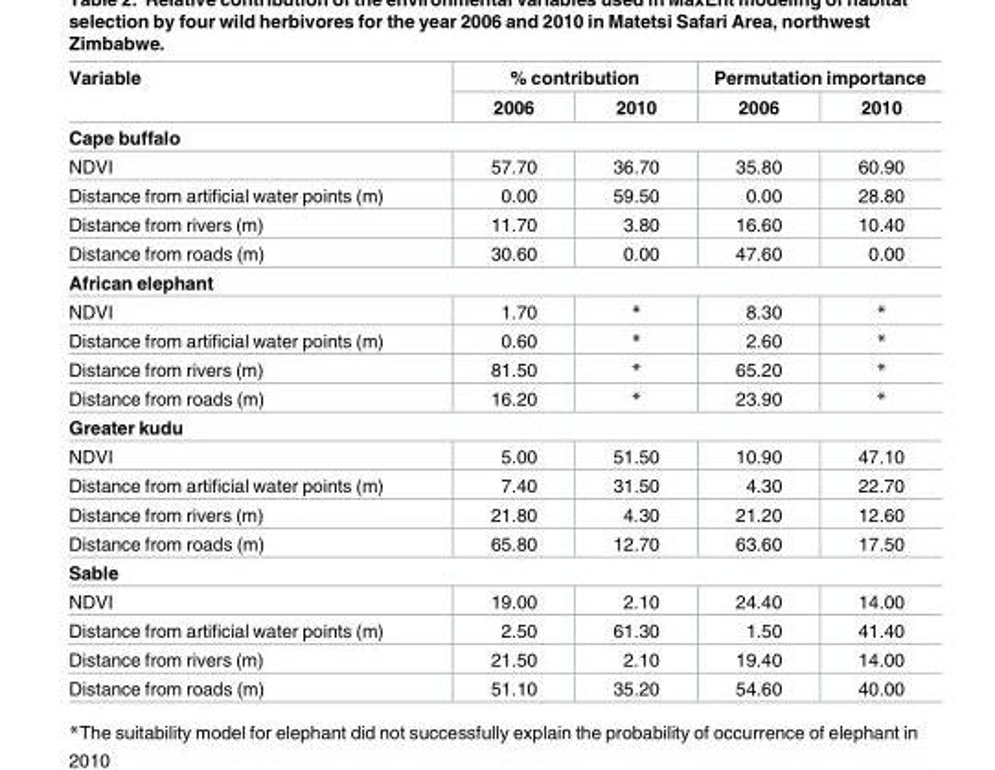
<table><thead><tr><td rowspan="2">Variable</td><td colspan="2">% contribution</td><td colspan="2">Permutation importance</td></tr><tr><td>2006</td><td>2010</td><td>2006</td><td>2010</td></tr></thead><tbody><tr><td colspan="5">Cape buffalo</td></tr><tr><td>NDVI</td><td>57.70</td><td>36.70</td><td>35.80</td><td>60.90</td></tr><tr><td>Distance from artificial water points (m)</td><td>0.00</td><td>59.50</td><td>0.00</td><td>28.80</td></tr><tr><td>Distance from rivers (m)</td><td>11.70</td><td>3.80</td><td>16.60</td><td>10.40</td></tr><tr><td>Distance from roads (m)</td><td>30.60</td><td>0.00</td><td>47.60</td><td>0.00</td></tr><tr><td colspan="5">African elephant</td></tr><tr><td>NDVI</td><td>1.70</td><td>*</td><td>8.30</td><td>*</td></tr><tr><td>Distance from artificial water points (m)</td><td>0.60</td><td>*</td><td>2.60</td><td>*</td></tr><tr><td>Distance from rivers (m)</td><td>81.50</td><td>*</td><td>65.20</td><td>*</td></tr><tr><td>Distance from roads (m)</td><td>16.20</td><td>*</td><td>23.90</td><td>*</td></tr><tr><td colspan="5">Greater kudu</td></tr><tr><td>NDVI</td><td>5.00</td><td>51.50</td><td>10.90</td><td>47.10</td></tr><tr><td>Distance from artificial water points (m)</td><td>7.40</td><td>31.50</td><td>4.30</td><td>22.70</td></tr><tr><td>Distance from rivers (m)</td><td>21.80</td><td>4.30</td><td>21.20</td><td>12.60</td></tr><tr><td>Distance from roads (m)</td><td>65.80</td><td>12.70</td><td>63.60</td><td>17.50</td></tr><tr><td colspan="5">Sable</td></tr><tr><td>NDVI</td><td>19.00</td><td>2.10</td><td>24.40</td><td>14.00</td></tr><tr><td>Distance from artificial water points (m)</td><td>2.50</td><td>61.30</td><td>1.50</td><td>41.40</td></tr><tr><td>Distance from rivers (m)</td><td>21.50</td><td>2.10</td><td>19.40</td><td>14.00</td></tr><tr><td>Distance from roads (m)</td><td>51.10</td><td>35.20</td><td>54.60</td><td>40.00</td></tr></tbody></table>